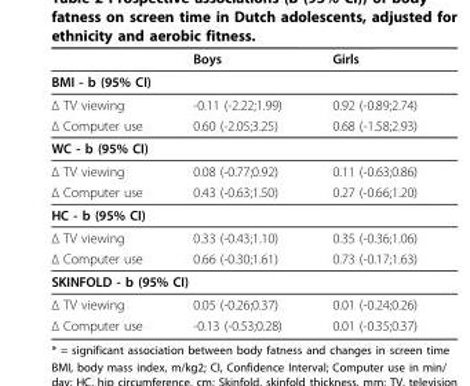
<table><thead><tr><td></td><td>Boys</td><td>Girls</td></tr></thead><tbody><tr><td colspan="3">BMI - b (95% CI)</td></tr><tr><td>Δ TV viewing</td><td>-0.11 (-2.22;1.99)</td><td>0.92 (-0.89;2.74)</td></tr><tr><td>Δ Computer use</td><td>0.60 (-2.05;3.25)</td><td>0.68 (-1.58;2.93)</td></tr><tr><td colspan="3">WC - b (95% CI)</td></tr><tr><td>Δ TV viewing</td><td>0.08 (-0.77;0.92)</td><td>0.11 (-0.63;0.86)</td></tr><tr><td>Δ Computer use</td><td>0.43 (-0.63;1.50)</td><td>0.27 (-0.66;1.20)</td></tr><tr><td colspan="3">HC - b (95% CI)</td></tr><tr><td>Δ TV viewing</td><td>0.33 (-0.43;1.10)</td><td>0.35 (-0.36;1.06)</td></tr><tr><td>Δ Computer use</td><td>0.66 (-0.30;1.61)</td><td>0.73 (-0.17;1.63)</td></tr><tr><td colspan="3">SKINFOLD - b (95% CI)</td></tr><tr><td>Δ TV viewing</td><td>0.05 (-0.26;0.37)</td><td>0.01 (-0.24;0.26)</td></tr><tr><td>Δ Computer use</td><td>-0.13 (-0.53;0.28)</td><td>0.01 (-0.35;0.37)</td></tr></tbody></table>